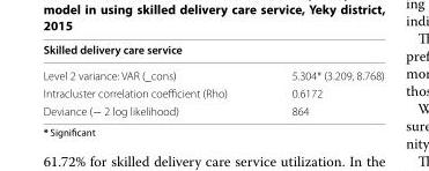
<table><thead><tr><td colspan="2">Skilled delivery care service</td></tr><tr><td>Level 2 variance: VAR (_cons)</td><td>5.304* (3.209, 8.768)</td></tr></thead><tbody><tr><td>Intracluster correlation coefficient (Rho)</td><td>0.6172</td></tr><tr><td>Deviance (− 2 log likelihood)</td><td>864</td></tr></tbody></table>